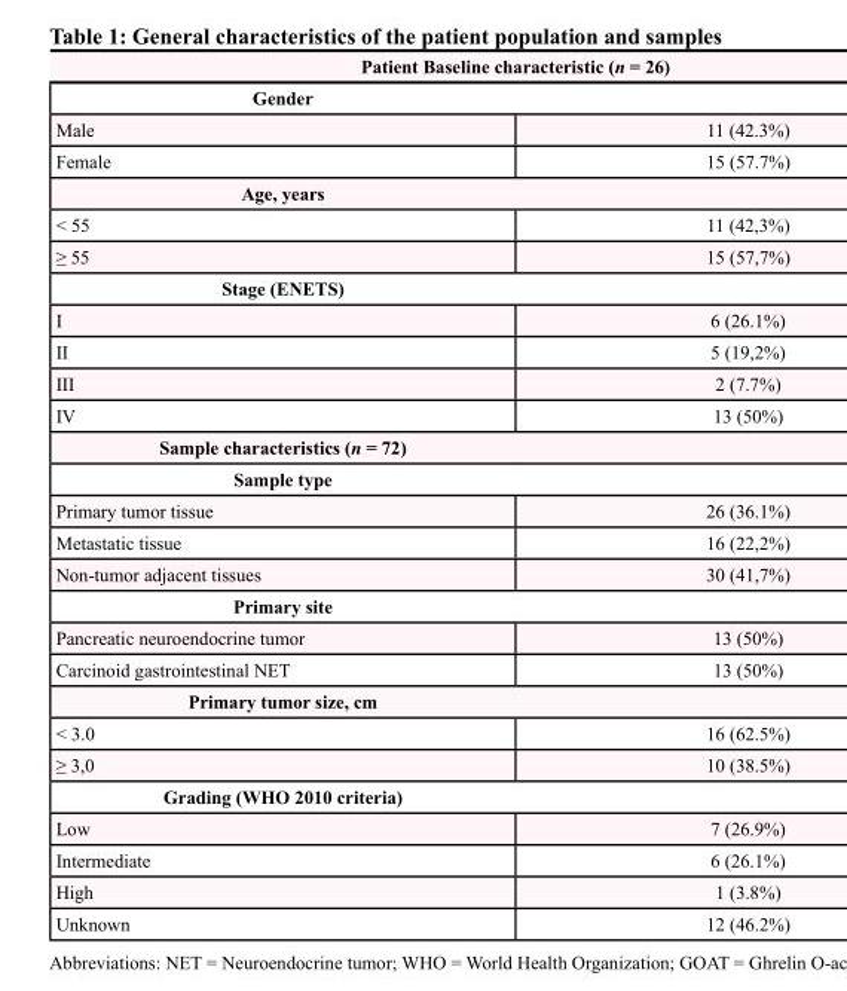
<table><thead><tr><td colspan="2">Patient Baseline characteristic (n = 26)</td></tr><tr><td>Gender</td><td></td></tr></thead><tbody><tr><td>Male</td><td>11 (42.3%)</td></tr><tr><td>Female</td><td>15 (57.7%)</td></tr><tr><td colspan="2">Age, years</td></tr><tr><td>&lt; 55</td><td>11 (42,3%)</td></tr><tr><td>≥ 55</td><td>15 (57,7%)</td></tr><tr><td colspan="2">Stage (ENETS)</td></tr><tr><td>I</td><td>6 (26.1%)</td></tr><tr><td>II</td><td>5 (19,2%)</td></tr><tr><td>III</td><td>2 (7.7%)</td></tr><tr><td>IV</td><td>13 (50%)</td></tr><tr><td colspan="2">Sample characteristics (n = 72)</td></tr><tr><td colspan="2">Sample type</td></tr><tr><td>Primary tumor tissue</td><td>26 (36.1%)</td></tr><tr><td>Metastatic tissue</td><td>16 (22,2%)</td></tr><tr><td>Non-tumor adjacent tissues</td><td>30 (41,7%)</td></tr><tr><td colspan="2">Primary site</td></tr><tr><td>Pancreatic neuroendocrine tumor</td><td>13 (50%)</td></tr><tr><td>Carcinoid gastrointestinal NET</td><td>13 (50%)</td></tr><tr><td colspan="2">Primary tumor size, cm</td></tr><tr><td>&lt; 3.0</td><td>16 (62.5%)</td></tr><tr><td>≥ 3,0</td><td>10 (38.5%)</td></tr><tr><td colspan="2">Grading (WHO 2010 criteria)</td></tr><tr><td>Low</td><td>7 (26.9%)</td></tr><tr><td>Intermediate</td><td>6 (26.1%)</td></tr><tr><td>High</td><td>1 (3.8%)</td></tr><tr><td>Unknown</td><td>12 (46.2%)</td></tr></tbody></table>